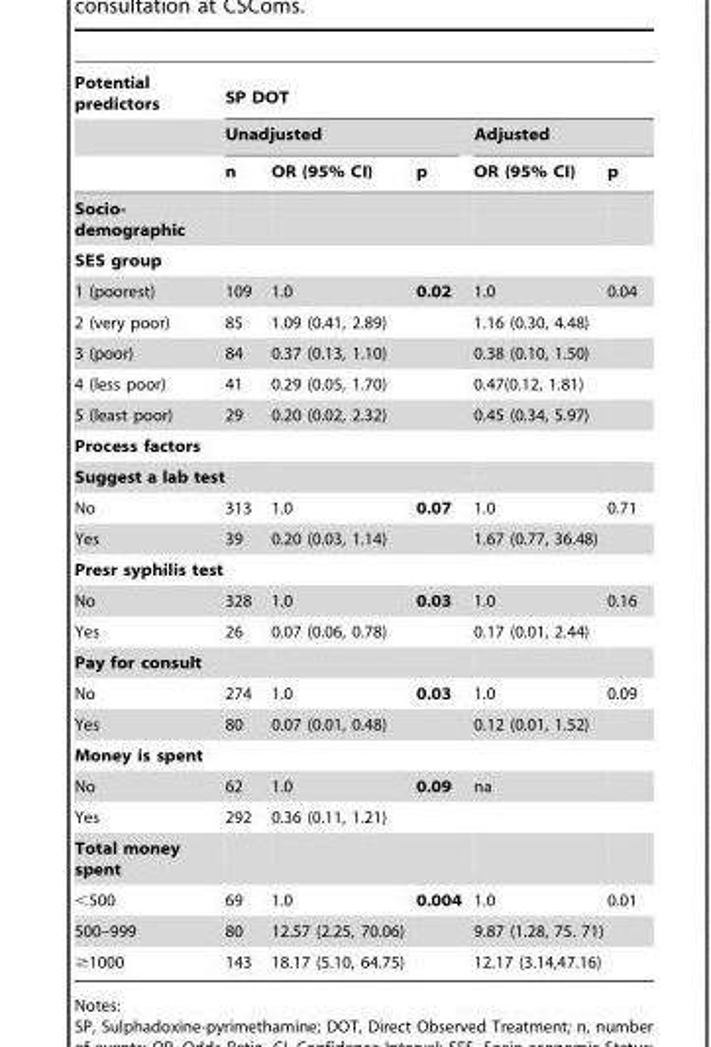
<table><thead><tr><td rowspan="3">Potential predictors</td><td colspan="5">SP DOT</td></tr><tr><td colspan="3">Unadjusted</td><td colspan="2">Adjusted</td></tr><tr><td>n</td><td>OR (95% CI)</td><td>p</td><td>OR (95% CI)</td><td>p</td></tr></thead><tbody><tr><td colspan="6">Socio- demographic</td></tr><tr><td colspan="6">SES group</td></tr><tr><td>1 (poorest)</td><td>109</td><td>1.0</td><td>0.02</td><td>1.0</td><td>0.04</td></tr><tr><td>2 (very poor)</td><td>85</td><td>1.09 (0.41, 2.89)</td><td></td><td>1.16 (0.30, 4.48)</td><td></td></tr><tr><td>3 (poor)</td><td>84</td><td>0.37 (0.13, 1.10)</td><td></td><td>0.38 (0.10, 1.50)</td><td></td></tr><tr><td>4 (less poor)</td><td>41</td><td>0.29 (0.05, 1.70)</td><td></td><td>0.47(0.12, 1.81)</td><td></td></tr><tr><td>5 (least poor)</td><td>29</td><td>0.20 (0.02, 2.32)</td><td></td><td>0.45 (0.34, 5.97)</td><td></td></tr><tr><td colspan="6">Process factors</td></tr><tr><td colspan="6">Suggest a lab test</td></tr><tr><td>No</td><td>313</td><td>1.0</td><td>0.07</td><td>1.0</td><td>0.71</td></tr><tr><td>Yes</td><td>39</td><td>0.20 (0.03, 1.14)</td><td></td><td>1.67 (0.77, 36.48)</td><td></td></tr><tr><td colspan="6">Presr syphilis test</td></tr><tr><td>No</td><td>328</td><td>1.0</td><td>0.03</td><td>1.0</td><td>0.16</td></tr><tr><td>Yes</td><td>26</td><td>0.07 (0.06, 0.78)</td><td></td><td>0.17 (0.01, 2.44)</td><td></td></tr><tr><td colspan="6">Pay for consult</td></tr><tr><td>No</td><td>274</td><td>1.0</td><td>0.03</td><td>1.0</td><td>0.09</td></tr><tr><td>Yes</td><td>80</td><td>0.07 (0.01, 0.48)</td><td></td><td>0.12 (0.01, 1.52)</td><td></td></tr><tr><td colspan="6">Money is spent</td></tr><tr><td>No</td><td>62</td><td>1.0</td><td>0.09</td><td>na</td><td></td></tr><tr><td>Yes</td><td>292</td><td>0.36 (0.11, 1.21)</td><td></td><td></td><td></td></tr><tr><td colspan="6">Total money spent</td></tr><tr><td>&lt;500</td><td>69</td><td>1.0</td><td>0.004</td><td>1.0</td><td>0.01</td></tr><tr><td>500–999</td><td>80</td><td>12.57 (2.25, 70.06)</td><td></td><td>9.87 (1.28, 75. 71)</td><td></td></tr><tr><td>≥1000</td><td>143</td><td>18.17 (5.10, 64.75)</td><td></td><td>12.17 (3.14,47.16)</td><td></td></tr></tbody></table>